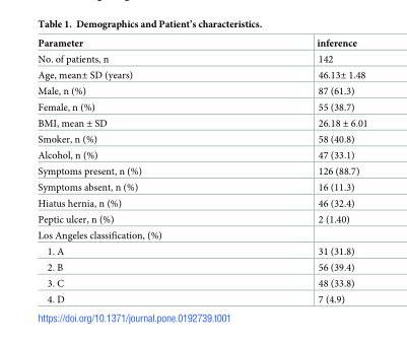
<table><thead><tr><td>Parameter</td><td>inference</td></tr></thead><tbody><tr><td>No. of patients, n</td><td>142</td></tr><tr><td>Age, mean± SD (years)</td><td>46.13± 1.48</td></tr><tr><td>Male, n (%)</td><td>87 (61.3)</td></tr><tr><td>Female, n (%)</td><td>55 (38.7)</td></tr><tr><td>BMI, mean ± SD</td><td>26.18 ± 6.01</td></tr><tr><td>Smoker, n (%)</td><td>58 (40.8)</td></tr><tr><td>Alcohol, n (%)</td><td>47 (33.1)</td></tr><tr><td>Symptoms present, n (%)</td><td>126 (88.7)</td></tr><tr><td>Symptoms absent, n (%)</td><td>16 (11.3)</td></tr><tr><td>Hiatus hernia, n (%)</td><td>46 (32.4)</td></tr><tr><td>Peptic ulcer, n (%)</td><td>2 (1.40)</td></tr><tr><td colspan="2">Los Angeles classification, (%)</td></tr><tr><td>1. A</td><td>31 (31.8)</td></tr><tr><td>2. B</td><td>56 (39.4)</td></tr><tr><td>3. C</td><td>48 (33.8)</td></tr><tr><td>4. D</td><td>7 (4.9)</td></tr></tbody></table>